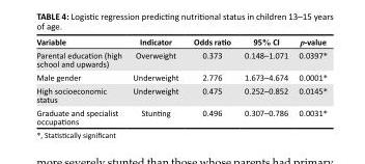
<table><thead><tr><td>Variable</td><td>Indicator</td><td>Odds ratio</td><td>95% CI</td><td>p-value</td></tr></thead><tbody><tr><td>Parental education (high school and upwards)</td><td>Overweight</td><td>0.373</td><td>0.148–1.071</td><td>0.0397*</td></tr><tr><td>Male gender</td><td>Underweight</td><td>2.776</td><td>1.673–4.674</td><td>0.0001*</td></tr><tr><td>High socioeconomic status</td><td>Underweight</td><td>0.475</td><td>0.252–0.852</td><td>0.0145*</td></tr><tr><td>Graduate and specialist occupations</td><td>Stunting</td><td>0.496</td><td>0.307–0.786</td><td>0.0031*</td></tr></tbody></table>